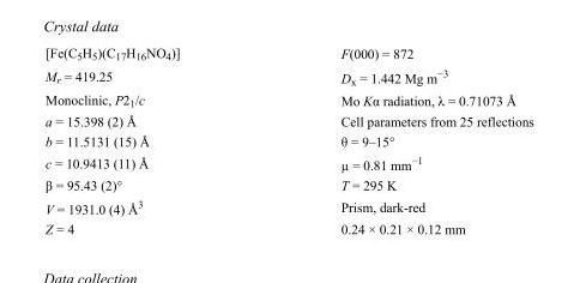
<table><tbody><tr><td>[Fe(C<sub>5</sub>H<sub>5</sub>)(C<sub>17</sub>H<sub>16</sub>NO<sub>4</sub>)]</td><td>F(000) = 872</td></tr><tr><td>M<sub>r</sub> = 419.25</td><td>D<sub>x</sub> = 1.442 Mg m<sup>−3</sup></td></tr><tr><td>Monoclinic, P2<sub>1</sub>/c</td><td>Mo Kα radiation, λ = 0.71073 Å</td></tr><tr><td>a = 15.398 (2) Å</td><td>Cell parameters from 25 reflections</td></tr><tr><td>b = 11.5131 (15) Å</td><td>θ = 9–15°</td></tr><tr><td>c = 10.9413 (11) Å</td><td>µ = 0.81 mm<sup>−1</sup></td></tr><tr><td>β = 95.43 (2)°</td><td>T = 295 K</td></tr><tr><td>V = 1931.0 (4) Å<sup>3</sup></td><td>Prism, dark-red</td></tr><tr><td>Z = 4</td><td>0.24 × 0.21 × 0.12 mm</td></tr></tbody></table>